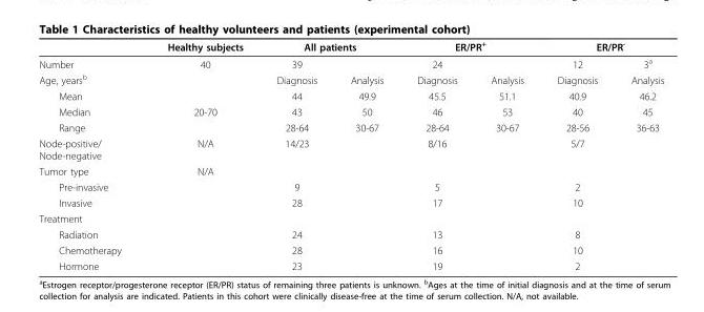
<table><thead><tr><td rowspan="2">Number</td><td rowspan="2">Healthy subjects 40</td><td colspan="2">All patients</td><td colspan="2">ER/PR<sup>+</sup></td><td colspan="2">ER/PR<sup>-</sup></td></tr><tr><td>39</td><td></td><td>24</td><td></td><td>12</td><td>3<sup>a</sup></td></tr></thead><tbody><tr><td>Age, years<sup>b</sup></td><td></td><td>Diagnosis</td><td>Analysis</td><td>Diagnosis</td><td>Analysis</td><td>Diagnosis</td><td>Analysis</td></tr><tr><td>Mean</td><td></td><td>44</td><td>49.9</td><td>45.5</td><td>51.1</td><td>40.9</td><td>46.2</td></tr><tr><td>Median</td><td>20-70</td><td>43</td><td>50</td><td>46</td><td>53</td><td>40</td><td>45</td></tr><tr><td>Range</td><td></td><td>28-64</td><td>30-67</td><td>28-64</td><td>30-67</td><td>28-56</td><td>36-63</td></tr><tr><td>Node-positive/ Node-negative</td><td>N/A</td><td>14/23</td><td></td><td>8/16</td><td></td><td>5/7</td><td></td></tr><tr><td>Tumor type</td><td>N/A</td><td></td><td></td><td></td><td></td><td></td><td></td></tr><tr><td>Pre-invasive</td><td></td><td>9</td><td></td><td>5</td><td></td><td>2</td><td></td></tr><tr><td>Invasive</td><td></td><td>28</td><td></td><td>17</td><td></td><td>10</td><td></td></tr><tr><td colspan="8">Treatment</td></tr><tr><td>Radiation</td><td></td><td>24</td><td></td><td>13</td><td></td><td>8</td><td></td></tr><tr><td>Chemotherapy</td><td></td><td>28</td><td></td><td>16</td><td></td><td>10</td><td></td></tr><tr><td>Hormone</td><td></td><td>23</td><td></td><td>19</td><td></td><td>2</td><td></td></tr></tbody></table>